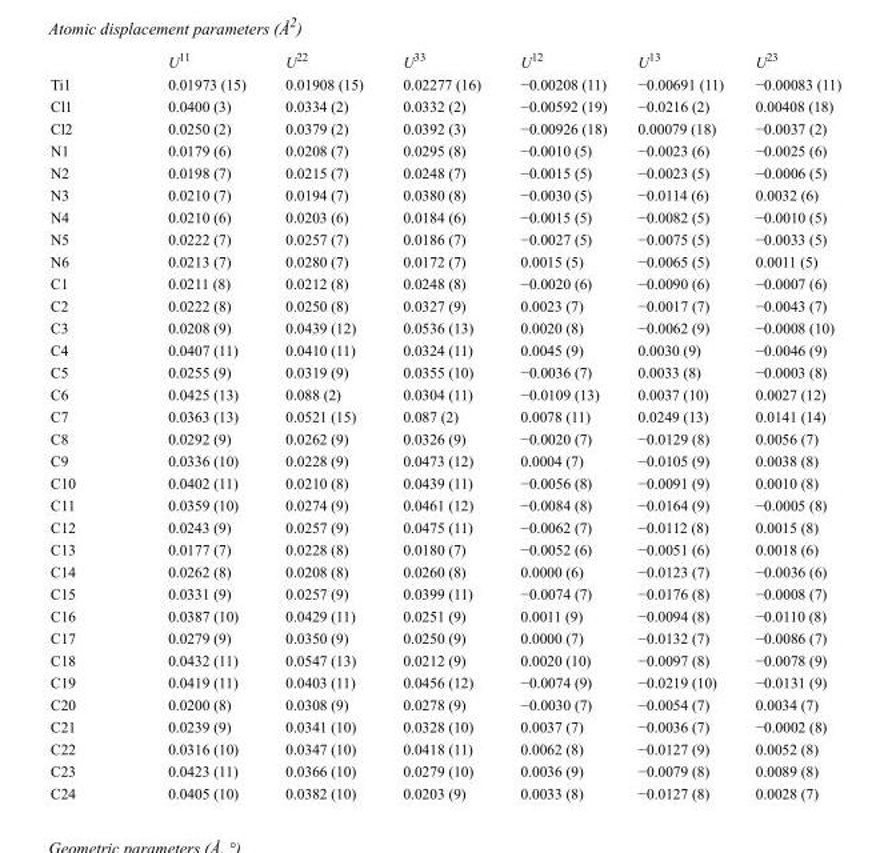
<table><thead><tr><td></td><td>U<sup>11</sup></td><td>U<sup>22</sup></td><td>U<sup>33</sup></td><td>U<sup>12</sup></td><td>U<sup>13</sup></td><td>U<sup>23</sup></td></tr></thead><tbody><tr><td>Ti1</td><td>0.01973 (15)</td><td>0.01908 (15)</td><td>0.02277 (16)</td><td>−0.00208 (11)</td><td>−0.00691 (11)</td><td>−0.00083 (11)</td></tr><tr><td>Cl1</td><td>0.0400 (3)</td><td>0.0334 (2)</td><td>0.0332 (2)</td><td>−0.00592 (19)</td><td>−0.0216 (2)</td><td>0.00408 (18)</td></tr><tr><td>Cl2</td><td>0.0250 (2)</td><td>0.0379 (2)</td><td>0.0392 (3)</td><td>−0.00926 (18)</td><td>0.00079 (18)</td><td>−0.0037 (2)</td></tr><tr><td>N1</td><td>0.0179 (6)</td><td>0.0208 (7)</td><td>0.0295 (8)</td><td>−0.0010 (5)</td><td>−0.0023 (6)</td><td>−0.0025 (6)</td></tr><tr><td>N2</td><td>0.0198 (7)</td><td>0.0215 (7)</td><td>0.0248 (7)</td><td>−0.0015 (5)</td><td>−0.0023 (5)</td><td>−0.0006 (5)</td></tr><tr><td>N3</td><td>0.0210 (7)</td><td>0.0194 (7)</td><td>0.0380 (8)</td><td>−0.0030 (5)</td><td>−0.0114 (6)</td><td>0.0032 (6)</td></tr><tr><td>N4</td><td>0.0210 (6)</td><td>0.0203 (6)</td><td>0.0184 (6)</td><td>−0.0015 (5)</td><td>−0.0082 (5)</td><td>−0.0010 (5)</td></tr><tr><td>N5</td><td>0.0222 (7)</td><td>0.0257 (7)</td><td>0.0186 (7)</td><td>−0.0027 (5)</td><td>−0.0075 (5)</td><td>−0.0033 (5)</td></tr><tr><td>N6</td><td>0.0213 (7)</td><td>0.0280 (7)</td><td>0.0172 (7)</td><td>0.0015 (5)</td><td>−0.0065 (5)</td><td>0.0011 (5)</td></tr><tr><td>C1</td><td>0.0211 (8)</td><td>0.0212 (8)</td><td>0.0248 (8)</td><td>−0.0020 (6)</td><td>−0.0090 (6)</td><td>−0.0007 (6)</td></tr><tr><td>C2</td><td>0.0222 (8)</td><td>0.0250 (8)</td><td>0.0327 (9)</td><td>0.0023 (7)</td><td>−0.0017 (7)</td><td>−0.0043 (7)</td></tr><tr><td>C3</td><td>0.0208 (9)</td><td>0.0439 (12)</td><td>0.0536 (13)</td><td>0.0020 (8)</td><td>−0.0062 (9)</td><td>−0.0008 (10)</td></tr><tr><td>C4</td><td>0.0407 (11)</td><td>0.0410 (11)</td><td>0.0324 (11)</td><td>0.0045 (9)</td><td>0.0030 (9)</td><td>−0.0046 (9)</td></tr><tr><td>C5</td><td>0.0255 (9)</td><td>0.0319 (9)</td><td>0.0355 (10)</td><td>−0.0036 (7)</td><td>0.0033 (8)</td><td>−0.0003 (8)</td></tr><tr><td>C6</td><td>0.0425 (13)</td><td>0.088 (2)</td><td>0.0304 (11)</td><td>−0.0109 (13)</td><td>0.0037 (10)</td><td>0.0027 (12)</td></tr><tr><td>C7</td><td>0.0363 (13)</td><td>0.0521 (15)</td><td>0.087 (2)</td><td>0.0078 (11)</td><td>0.0249 (13)</td><td>0.0141 (14)</td></tr><tr><td>C8</td><td>0.0292 (9)</td><td>0.0262 (9)</td><td>0.0326 (9)</td><td>−0.0020 (7)</td><td>−0.0129 (8)</td><td>0.0056 (7)</td></tr><tr><td>C9</td><td>0.0336 (10)</td><td>0.0228 (9)</td><td>0.0473 (12)</td><td>0.0004 (7)</td><td>−0.0105 (9)</td><td>0.0038 (8)</td></tr><tr><td>C10</td><td>0.0402 (11)</td><td>0.0210 (8)</td><td>0.0439 (11)</td><td>−0.0056 (8)</td><td>−0.0091 (9)</td><td>0.0010 (8)</td></tr><tr><td>C11</td><td>0.0359 (10)</td><td>0.0274 (9)</td><td>0.0461 (12)</td><td>−0.0084 (8)</td><td>−0.0164 (9)</td><td>−0.0005 (8)</td></tr><tr><td>C12</td><td>0.0243 (9)</td><td>0.0257 (9)</td><td>0.0475 (11)</td><td>−0.0062 (7)</td><td>−0.0112 (8)</td><td>0.0015 (8)</td></tr><tr><td>C13</td><td>0.0177 (7)</td><td>0.0228 (8)</td><td>0.0180 (7)</td><td>−0.0052 (6)</td><td>−0.0051 (6)</td><td>0.0018 (6)</td></tr><tr><td>C14</td><td>0.0262 (8)</td><td>0.0208 (8)</td><td>0.0260 (8)</td><td>0.0000 (6)</td><td>−0.0123 (7)</td><td>−0.0036 (6)</td></tr><tr><td>C15</td><td>0.0331 (9)</td><td>0.0257 (9)</td><td>0.0399 (11)</td><td>−0.0074 (7)</td><td>−0.0176 (8)</td><td>−0.0008 (7)</td></tr><tr><td>C16</td><td>0.0387 (10)</td><td>0.0429 (11)</td><td>0.0251 (9)</td><td>0.0011 (9)</td><td>−0.0094 (8)</td><td>−0.0110 (8)</td></tr><tr><td>C17</td><td>0.0279 (9)</td><td>0.0350 (9)</td><td>0.0250 (9)</td><td>0.0000 (7)</td><td>−0.0132 (7)</td><td>−0.0086 (7)</td></tr><tr><td>C18</td><td>0.0432 (11)</td><td>0.0547 (13)</td><td>0.0212 (9)</td><td>0.0020 (10)</td><td>−0.0097 (8)</td><td>−0.0078 (9)</td></tr><tr><td>C19</td><td>0.0419 (11)</td><td>0.0403 (11)</td><td>0.0456 (12)</td><td>−0.0074 (9)</td><td>−0.0219 (10)</td><td>−0.0131 (9)</td></tr><tr><td>C20</td><td>0.0200 (8)</td><td>0.0308 (9)</td><td>0.0278 (9)</td><td>−0.0030 (7)</td><td>−0.0054 (7)</td><td>0.0034 (7)</td></tr><tr><td>C21</td><td>0.0239 (9)</td><td>0.0341 (10)</td><td>0.0328 (10)</td><td>0.0037 (7)</td><td>−0.0036 (7)</td><td>−0.0002 (8)</td></tr><tr><td>C22</td><td>0.0316 (10)</td><td>0.0347 (10)</td><td>0.0418 (11)</td><td>0.0062 (8)</td><td>−0.0127 (9)</td><td>0.0052 (8)</td></tr><tr><td>C23</td><td>0.0423 (11)</td><td>0.0366 (10)</td><td>0.0279 (10)</td><td>0.0036 (9)</td><td>−0.0079 (8)</td><td>0.0089 (8)</td></tr><tr><td>C24</td><td>0.0405 (10)</td><td>0.0382 (10)</td><td>0.0203 (9)</td><td>0.0033 (8)</td><td>−0.0127 (8)</td><td>0.0028 (7)</td></tr></tbody></table>